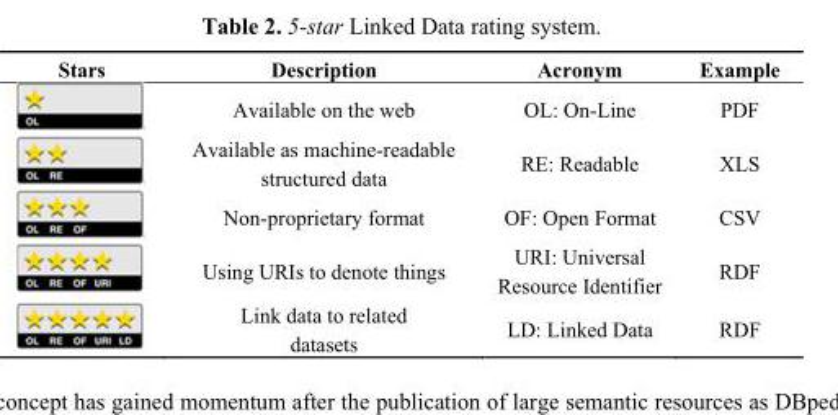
<table><thead><tr><td>Stars</td><td>Description</td><td>Acronym</td><td>Example</td></tr></thead><tbody><tr><td></td><td>Available on the web</td><td>OL: On-Line</td><td>PDF</td></tr><tr><td></td><td>Available as machine-readable structured data</td><td>RE: Readable</td><td>XLS</td></tr><tr><td></td><td>Non-proprietary format</td><td>OF: Open Format</td><td>CSV</td></tr><tr><td></td><td>Using URIs to denote things</td><td>URI: Universal Resource Identifier</td><td>RDF</td></tr><tr><td></td><td>Link data to related datasets</td><td>LD: Linked Data</td><td>RDF</td></tr></tbody></table>